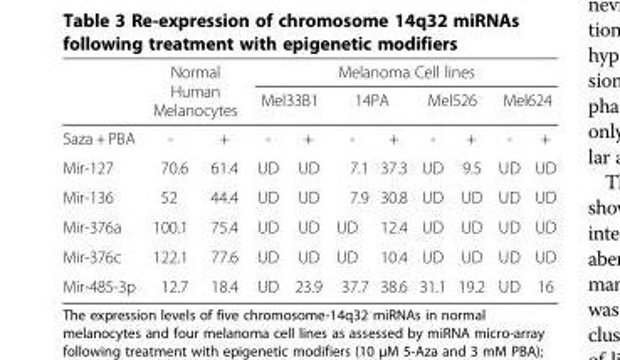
<table><thead><tr><td rowspan="3">5aza + PBA</td><td rowspan="2" colspan="2">Normal Human Melanocytes</td><td colspan="8">Melanoma Cell lines</td></tr><tr><td colspan="2">Mel33B1</td><td colspan="2">14PA</td><td colspan="2">Mel526</td><td colspan="2">Mel624</td></tr><tr><td>-</td><td>+</td><td>-</td><td>+</td><td>-</td><td>+</td><td>-</td><td>+</td><td>-</td><td>+</td></tr></thead><tbody><tr><td>Mir-127</td><td>70.6</td><td>61.4</td><td>UD</td><td>UD</td><td>7.1</td><td>37.3</td><td>UD</td><td>9.5</td><td>UD</td><td>UD</td></tr><tr><td>Mir-136</td><td>52</td><td>44.4</td><td>UD</td><td>UD</td><td>7.9</td><td>30.8</td><td>UD</td><td>UD</td><td>UD</td><td>UD</td></tr><tr><td>Mir-376a</td><td>100.1</td><td>75.4</td><td>UD</td><td>UD</td><td>UD</td><td>12.4</td><td>UD</td><td>UD</td><td>UD</td><td>UD</td></tr><tr><td>Mir-376c</td><td>122.1</td><td>77.6</td><td>UD</td><td>UD</td><td>UD</td><td>10.4</td><td>UD</td><td>UD</td><td>UD</td><td>UD</td></tr><tr><td>Mir-485-3p</td><td>12.7</td><td>18.4</td><td>UD</td><td>23.9</td><td>37.7</td><td>38.6</td><td>31.1</td><td>19.2</td><td>UD</td><td>16</td></tr></tbody></table>